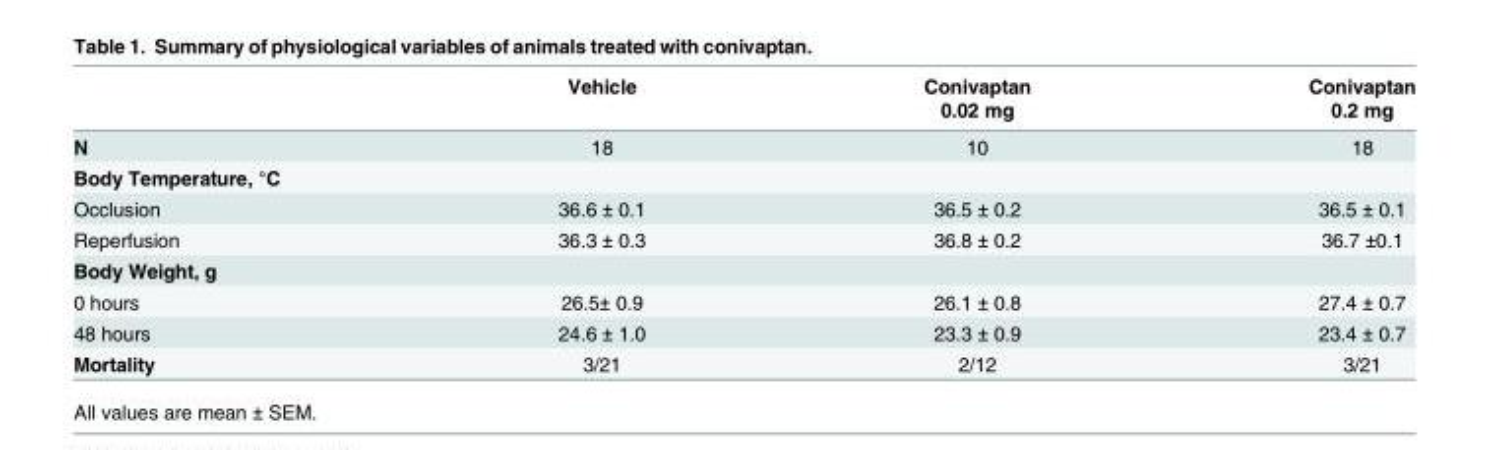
<table><thead><tr><td rowspan="2"></td><td rowspan="2">Vehicle</td><td rowspan="2">Conivaptan 0.02 mg</td><td rowspan="2">Conivaptan 0.2 mg</td></tr><tr></tr></thead><tbody><tr><td>N</td><td>18</td><td>10</td><td>18</td></tr><tr><td colspan="4">Body Temperature, °C</td></tr><tr><td>Occlusion</td><td>36.6 ± 0.1</td><td>36.5 ± 0.2</td><td>36.5 ± 0.1</td></tr><tr><td>Reperfusion</td><td>36.3 ± 0.3</td><td>36.8 ± 0.2</td><td>36.7 ±0.1</td></tr><tr><td colspan="4">Body Weight, g</td></tr><tr><td>0 hours</td><td>26.5± 0.9</td><td>26.1 ± 0.8</td><td>27.4 ± 0.7</td></tr><tr><td>48 hours</td><td>24.6 ± 1.0</td><td>23.3 ± 0.9</td><td>23.4 ± 0.7</td></tr><tr><td>Mortality</td><td>3/21</td><td>2/12</td><td>3/21</td></tr></tbody></table>